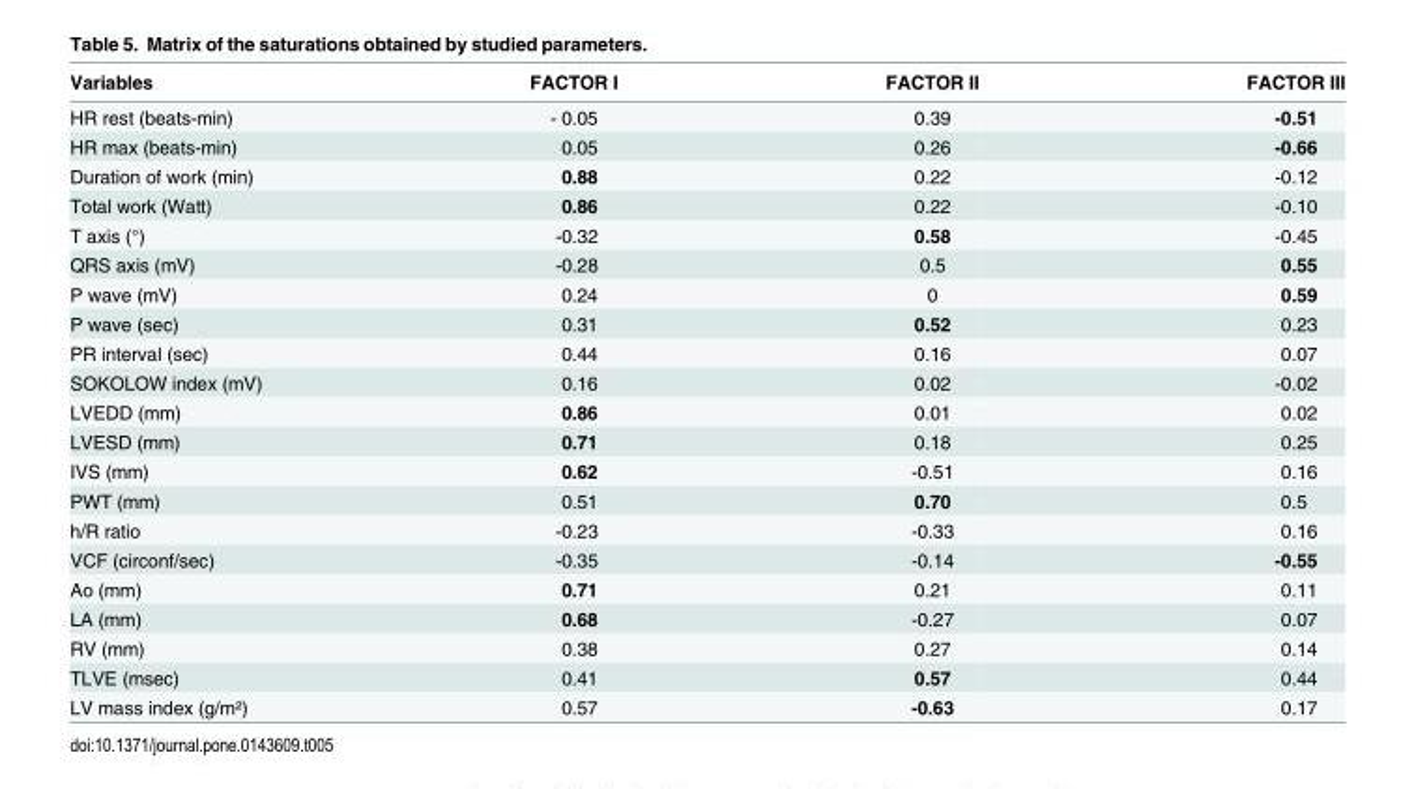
<table><thead><tr><td>Variables</td><td>FACTOR I</td><td>FACTOR II</td><td>FACTOR III</td></tr></thead><tbody><tr><td>HR rest (beats-min)</td><td>- 0.05</td><td>0.39</td><td>-0.51</td></tr><tr><td>HR max (beats-min)</td><td>0.05</td><td>0.26</td><td>-0.66</td></tr><tr><td>Duration of work (min)</td><td>0.88</td><td>0.22</td><td>-0.12</td></tr><tr><td>Total work (Watt)</td><td>0.86</td><td>0.22</td><td>-0.10</td></tr><tr><td>T axis (°)</td><td>-0.32</td><td>0.58</td><td>-0.45</td></tr><tr><td>QRS axis (mV)</td><td>-0.28</td><td>0.5</td><td>0.55</td></tr><tr><td>P wave (mV)</td><td>0.24</td><td>0</td><td>0.59</td></tr><tr><td>P wave (sec)</td><td>0.31</td><td>0.52</td><td>0.23</td></tr><tr><td>PR interval (sec)</td><td>0.44</td><td>0.16</td><td>0.07</td></tr><tr><td>SOKOLOW index (mV)</td><td>0.16</td><td>0.02</td><td>-0.02</td></tr><tr><td>LVEDD (mm)</td><td>0.86</td><td>0.01</td><td>0.02</td></tr><tr><td>LVESD (mm)</td><td>0.71</td><td>0.18</td><td>0.25</td></tr><tr><td>IVS (mm)</td><td>0.62</td><td>-0.51</td><td>0.16</td></tr><tr><td>PWT (mm)</td><td>0.51</td><td>0.70</td><td>0.5</td></tr><tr><td>h/R ratio</td><td>-0.23</td><td>-0.33</td><td>0.16</td></tr><tr><td>VCF (circonf/sec)</td><td>-0.35</td><td>-0.14</td><td>-0.55</td></tr><tr><td>Ao (mm)</td><td>0.71</td><td>0.21</td><td>0.11</td></tr><tr><td>LA (mm)</td><td>0.68</td><td>-0.27</td><td>0.07</td></tr><tr><td>RV (mm)</td><td>0.38</td><td>0.27</td><td>0.14</td></tr><tr><td>TLVE (msec)</td><td>0.41</td><td>0.57</td><td>0.44</td></tr><tr><td>LV mass index (g/m²)</td><td>0.57</td><td>-0.63</td><td>0.17</td></tr></tbody></table>